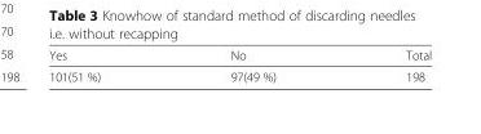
<table><thead><tr><td>Yes</td><td>No</td><td>Total</td></tr></thead><tbody><tr><td>101(51 %)</td><td>97(49 %)</td><td>198</td></tr></tbody></table>